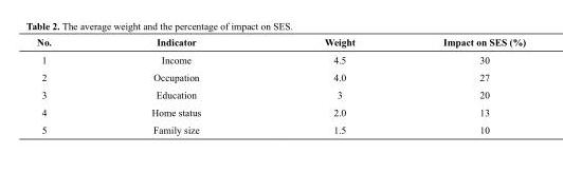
<table><thead><tr><td>No.</td><td>Indicator</td><td>Weight</td><td>Impact on SES (%)</td></tr></thead><tbody><tr><td>1</td><td>Income</td><td>4.5</td><td>30</td></tr><tr><td>2</td><td>Occupation</td><td>4.0</td><td>27</td></tr><tr><td>3</td><td>Education</td><td>3</td><td>20</td></tr><tr><td>4</td><td>Home status</td><td>2.0</td><td>13</td></tr><tr><td>5</td><td>Family size</td><td>1.5</td><td>10</td></tr></tbody></table>